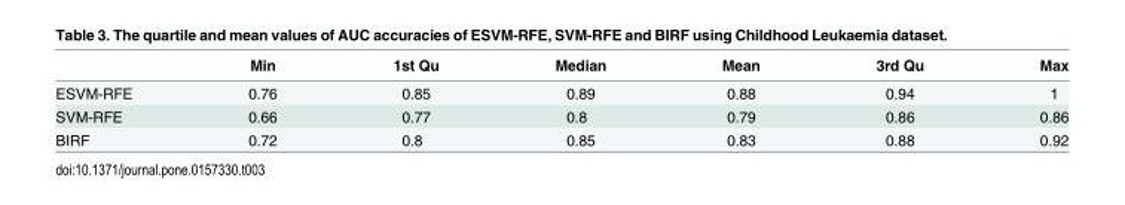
<table><thead><tr><td></td><td>Min</td><td>1st Qu</td><td>Median</td><td>Mean</td><td>3rd Qu</td><td>Max</td></tr></thead><tbody><tr><td>ESVM-RFE</td><td>0.76</td><td>0.85</td><td>0.89</td><td>0.88</td><td>0.94</td><td>1</td></tr><tr><td>SVM-RFE</td><td>0.66</td><td>0.77</td><td>0.8</td><td>0.79</td><td>0.86</td><td>0.86</td></tr><tr><td>BIRF</td><td>0.72</td><td>0.8</td><td>0.85</td><td>0.83</td><td>0.88</td><td>0.92</td></tr></tbody></table>